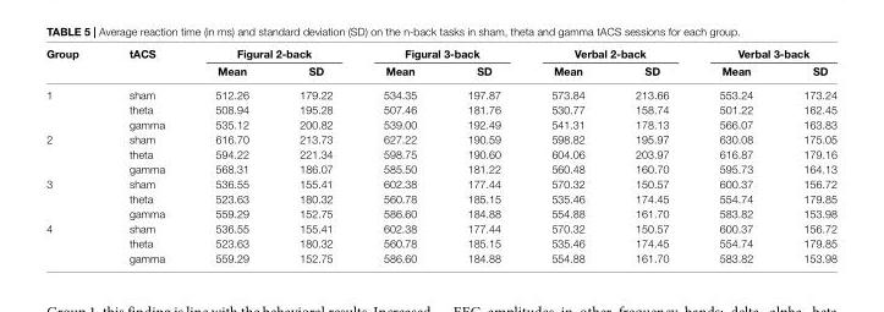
<table><thead><tr><td rowspan="2">Group</td><td rowspan="2">tACS</td><td colspan="2">Figural 2-back</td><td colspan="2">Figural 3-back</td><td colspan="2">Verbal 2-back</td><td colspan="2">Verbal 3-back</td></tr><tr><td>Mean</td><td>SD</td><td>Mean</td><td>SD</td><td>Mean</td><td>SD</td><td>Mean</td><td>SD</td></tr></thead><tbody><tr><td rowspan="3">1</td><td>sham</td><td>512.26</td><td>179.22</td><td>534.35</td><td>197.87</td><td>573.84</td><td>213.66</td><td>553.24</td><td>173.24</td></tr><tr><td>theta</td><td>508.94</td><td>195.28</td><td>507.46</td><td>181.76</td><td>530.77</td><td>158.74</td><td>501.22</td><td>162.45</td></tr><tr><td>gamma</td><td>535.12</td><td>200.82</td><td>539.00</td><td>192.49</td><td>541.31</td><td>178.13</td><td>566.07</td><td>163.83</td></tr><tr><td rowspan="3">2</td><td>sham</td><td>616.70</td><td>213.73</td><td>627.22</td><td>190.59</td><td>598.82</td><td>195.97</td><td>630.08</td><td>175.05</td></tr><tr><td>theta</td><td>594.22</td><td>221.34</td><td>598.75</td><td>190.60</td><td>604.06</td><td>203.97</td><td>616.87</td><td>179.16</td></tr><tr><td>gamma</td><td>568.31</td><td>186.07</td><td>585.50</td><td>181.22</td><td>560.48</td><td>160.70</td><td>595.73</td><td>164.13</td></tr><tr><td rowspan="3">3</td><td>sham</td><td>536.55</td><td>155.41</td><td>602.38</td><td>177.44</td><td>570.32</td><td>150.57</td><td>600.37</td><td>156.72</td></tr><tr><td>theta</td><td>523.63</td><td>180.32</td><td>560.78</td><td>185.15</td><td>535.46</td><td>174.45</td><td>554.74</td><td>179.85</td></tr><tr><td>gamma</td><td>559.29</td><td>152.75</td><td>586.60</td><td>184.88</td><td>554.88</td><td>161.70</td><td>583.82</td><td>153.98</td></tr><tr><td rowspan="3">4</td><td>sham</td><td>536.55</td><td>155.41</td><td>602.38</td><td>177.44</td><td>570.32</td><td>150.57</td><td>600.37</td><td>156.72</td></tr><tr><td>theta</td><td>523.63</td><td>180.32</td><td>560.78</td><td>185.15</td><td>535.46</td><td>174.45</td><td>554.74</td><td>179.85</td></tr><tr><td>gamma</td><td>559.29</td><td>152.75</td><td>586.60</td><td>184.88</td><td>554.88</td><td>161.70</td><td>583.82</td><td>153.98</td></tr></tbody></table>